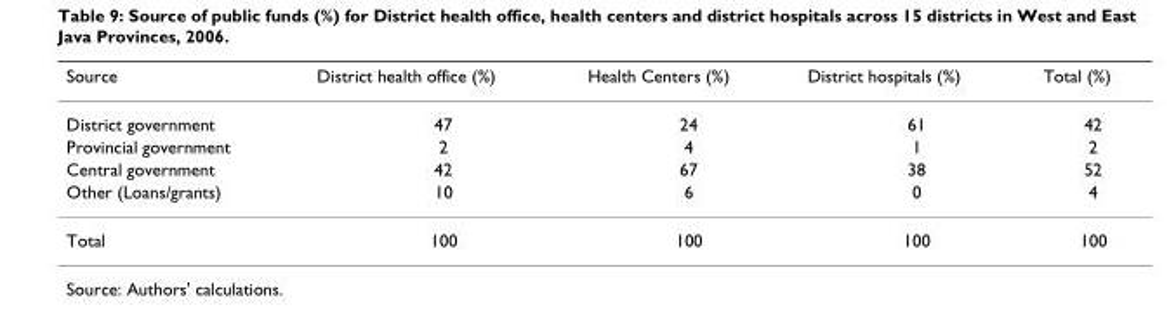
<table><thead><tr><td>Source</td><td>District health office (%)</td><td>Health Centers (%)</td><td>District hospitals (%)</td><td>Total (%)</td></tr></thead><tbody><tr><td>District government</td><td>47</td><td>24</td><td>61</td><td>42</td></tr><tr><td>Provincial government</td><td>2</td><td>4</td><td>1</td><td>2</td></tr><tr><td>Central government</td><td>42</td><td>67</td><td>38</td><td>52</td></tr><tr><td>Other (Loans/grants)</td><td>10</td><td>6</td><td>0</td><td>4</td></tr><tr><td>Total</td><td>100</td><td>100</td><td>100</td><td>100</td></tr></tbody></table>